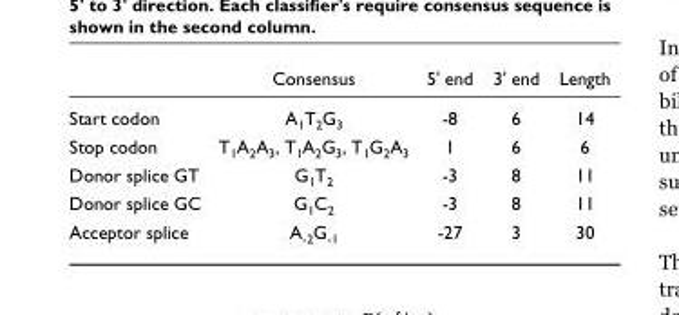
<table><thead><tr><td></td><td>Consensus</td><td>5&#x27; end</td><td>3&#x27; end</td><td>Length</td></tr></thead><tbody><tr><td>Start codon</td><td>A<sub>1</sub>T<sub>2</sub>G<sub>3</sub></td><td>-8</td><td>6</td><td>14</td></tr><tr><td>Stop codon</td><td>T<sub>1</sub>A<sub>2</sub>A<sub>3</sub>, T<sub>1</sub>A<sub>2</sub>G<sub>3</sub>, T<sub>1</sub>G<sub>2</sub>A<sub>3</sub></td><td>1</td><td>6</td><td>6</td></tr><tr><td>Donor splice GT</td><td>G<sub>1</sub>T<sub>2</sub></td><td>-3</td><td>8</td><td>11</td></tr><tr><td>Donor splice GC</td><td>G<sub>1</sub>C<sub>2</sub></td><td>-3</td><td>8</td><td>11</td></tr><tr><td>Acceptor splice</td><td>A<sub>-2</sub>G<sub>-1</sub></td><td>-27</td><td>3</td><td>30</td></tr></tbody></table>